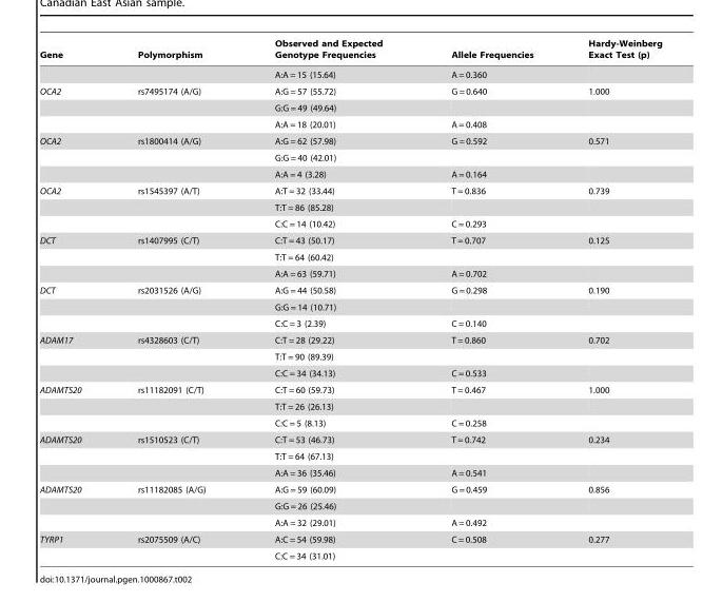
<table><thead><tr><td>Gene</td><td>Polymorphism</td><td>Observed and Expected Genotype Frequencies</td><td>Allele Frequencies</td><td>Hardy-Weinberg Exact Test (p)</td></tr></thead><tbody><tr><td></td><td></td><td>A:A = 15 (15.64)</td><td>A = 0.360</td><td></td></tr><tr><td rowspan="3">OCA2</td><td>rs7495174 (A/G)</td><td>A:G = 57 (55.72)</td><td>G = 0.640</td><td>1.000</td></tr><tr><td></td><td>G:G = 49 (49.64)</td><td></td><td></td></tr><tr><td></td><td>A:A = 18 (20.01)</td><td>A = 0.408</td><td></td></tr><tr><td rowspan="3">OCA2</td><td>rs1800414 (A/G)</td><td>A:G = 62 (57.98)</td><td>G = 0.592</td><td>0.571</td></tr><tr><td></td><td>G:G = 40 (42.01)</td><td></td><td></td></tr><tr><td></td><td>A:A = 4 (3.28)</td><td>A = 0.164</td><td></td></tr><tr><td rowspan="3">OCA2</td><td>rs1545397 (A/T)</td><td>A:T = 32 (33.44)</td><td>T = 0.836</td><td>0.739</td></tr><tr><td></td><td>T:T = 86 (85.28)</td><td></td><td></td></tr><tr><td></td><td>C:C = 14 (10.42)</td><td>C = 0.293</td><td></td></tr><tr><td rowspan="3">DCT</td><td>rs1407995 (C/T)</td><td>C:T = 43 (50.17)</td><td>T = 0.707</td><td>0.125</td></tr><tr><td></td><td>T:T = 64 (60.42)</td><td></td><td></td></tr><tr><td></td><td>A:A = 63 (59.71)</td><td>A = 0.702</td><td></td></tr><tr><td rowspan="3">DCT</td><td>rs2031526 (A/G)</td><td>A:G = 44 (50.58)</td><td>G = 0.298</td><td>0.190</td></tr><tr><td></td><td>G:G = 14 (10.71)</td><td></td><td></td></tr><tr><td></td><td>C:C = 3 (2.39)</td><td>C = 0.140</td><td></td></tr><tr><td rowspan="3">ADAM17</td><td>rs4328603 (C/T)</td><td>C:T = 28 (29.22)</td><td>T = 0.860</td><td>0.702</td></tr><tr><td></td><td>T:T = 90 (89.39)</td><td></td><td></td></tr><tr><td></td><td>C:C = 34 (34.13)</td><td>C = 0.533</td><td></td></tr><tr><td rowspan="3">ADAMTS20</td><td>rs11182091 (C/T)</td><td>C:T = 60 (59.73)</td><td>T = 0.467</td><td>1.000</td></tr><tr><td></td><td>T:T = 26 (26.13)</td><td></td><td></td></tr><tr><td></td><td>C:C = 5 (8.13)</td><td>C = 0.258</td><td></td></tr><tr><td rowspan="3">ADAMTS20</td><td>rs1510523 (C/T)</td><td>C:T = 53 (46.73)</td><td>T = 0.742</td><td>0.234</td></tr><tr><td></td><td>T:T = 64 (67.13)</td><td></td><td></td></tr><tr><td></td><td>A:A = 36 (35.46)</td><td>A = 0.541</td><td></td></tr><tr><td rowspan="3">ADAMTS20</td><td>rs11182085 (A/G)</td><td>A:G = 59 (60.09)</td><td>G = 0.459</td><td>0.856</td></tr><tr><td></td><td>G:G = 26 (25.46)</td><td></td><td></td></tr><tr><td></td><td>A:A = 32 (29.01)</td><td>A = 0.492</td><td></td></tr><tr><td rowspan="2">TYRP1</td><td>rs2075509 (A/C)</td><td>A:C = 54 (59.98)</td><td>C = 0.508</td><td>0.277</td></tr><tr><td></td><td>C:C = 34 (31.01)</td><td></td><td></td></tr></tbody></table>